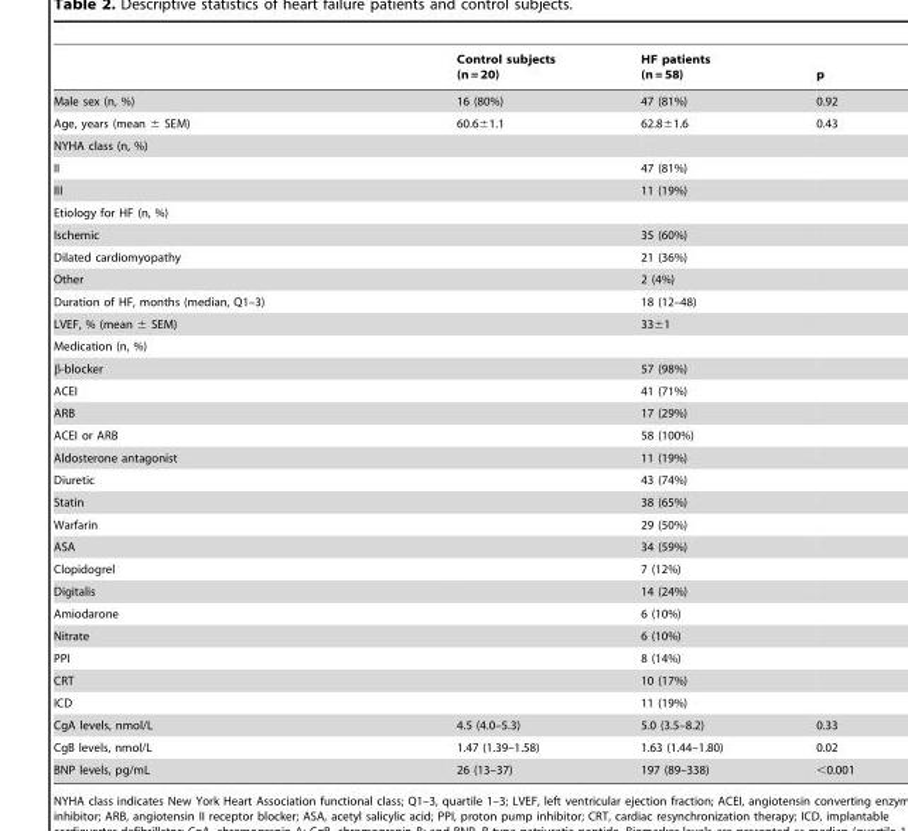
<table><thead><tr><td></td><td>Control subjects (n = 20)</td><td>HF patients (n = 58)</td><td>p</td></tr></thead><tbody><tr><td>Male sex (n, %)</td><td>16 (80%)</td><td>47 (81%)</td><td>0.92</td></tr><tr><td>Age, years (mean ± SEM)</td><td>60.6±1.1</td><td>62.8±1.6</td><td>0.43</td></tr><tr><td colspan="4">NYHA class (n, %)</td></tr><tr><td>II</td><td></td><td>47 (81%)</td><td></td></tr><tr><td>III</td><td></td><td>11 (19%)</td><td></td></tr><tr><td colspan="4">Etiology for HF (n, %)</td></tr><tr><td>Ischemic</td><td></td><td>35 (60%)</td><td></td></tr><tr><td>Dilated cardiomyopathy</td><td></td><td>21 (36%)</td><td></td></tr><tr><td>Other</td><td></td><td>2 (4%)</td><td></td></tr><tr><td>Duration of HF, months (median, Q1–3)</td><td></td><td>18 (12–48)</td><td></td></tr><tr><td>LVEF, % (mean ± SEM)</td><td></td><td>33±1</td><td></td></tr><tr><td colspan="4">Medication (n, %)</td></tr><tr><td>β-blocker</td><td></td><td>57 (98%)</td><td></td></tr><tr><td>ACEI</td><td></td><td>41 (71%)</td><td></td></tr><tr><td>ARB</td><td></td><td>17 (29%)</td><td></td></tr><tr><td>ACEI or ARB</td><td></td><td>58 (100%)</td><td></td></tr><tr><td>Aldosterone antagonist</td><td></td><td>11 (19%)</td><td></td></tr><tr><td>Diuretic</td><td></td><td>43 (74%)</td><td></td></tr><tr><td>Statin</td><td></td><td>38 (65%)</td><td></td></tr><tr><td>Warfarin</td><td></td><td>29 (50%)</td><td></td></tr><tr><td>ASA</td><td></td><td>34 (59%)</td><td></td></tr><tr><td>Clopidogrel</td><td></td><td>7 (12%)</td><td></td></tr><tr><td>Digitalis</td><td></td><td>14 (24%)</td><td></td></tr><tr><td>Amiodarone</td><td></td><td>6 (10%)</td><td></td></tr><tr><td>Nitrate</td><td></td><td>6 (10%)</td><td></td></tr><tr><td>PPI</td><td></td><td>8 (14%)</td><td></td></tr><tr><td>CRT</td><td></td><td>10 (17%)</td><td></td></tr><tr><td>ICD</td><td></td><td>11 (19%)</td><td></td></tr><tr><td>CgA levels, nmol/L</td><td>4.5 (4.0–5.3)</td><td>5.0 (3.5–8.2)</td><td>0.33</td></tr><tr><td>CgB levels, nmol/L</td><td>1.47 (1.39–1.58)</td><td>1.63 (1.44–1.80)</td><td>0.02</td></tr><tr><td>BNP levels, pg/mL</td><td>26 (13–37)</td><td>197 (89–338)</td><td>&lt;0.001</td></tr></tbody></table>